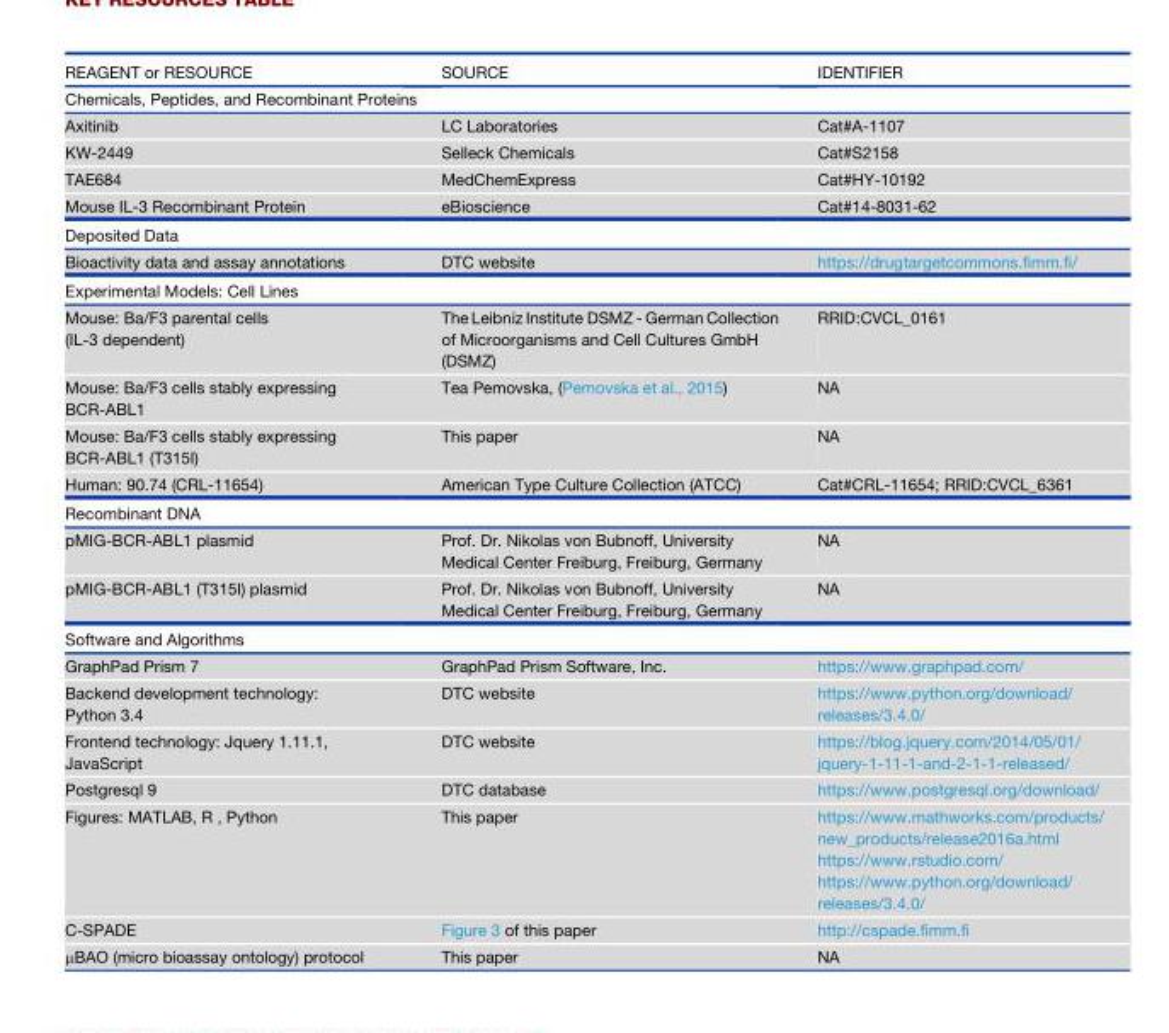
<table><thead><tr><td>REAGENT or RESOURCE</td><td>SOURCE</td><td>IDENTIFIER</td></tr></thead><tbody><tr><td colspan="3">Chemicals, Peptides, and Recombinant Proteins</td></tr><tr><td>Axitinib</td><td>LC Laboratories</td><td>Cat#A-1107</td></tr><tr><td>KW-2449</td><td>Selleck Chemicals</td><td>Cat#S2158</td></tr><tr><td>TAE684</td><td>MedChemExpress</td><td>Cat#HY-10192</td></tr><tr><td>Mouse IL-3 Recombinant Protein</td><td>eBioscience</td><td>Cat#14-8031-62</td></tr><tr><td colspan="3">Deposited Data</td></tr><tr><td>Bioactivity data and assay annotations</td><td>DTC website</td><td>https://drugtargetcommons.fimm.fi/</td></tr><tr><td colspan="3">Experimental Models: Cell Lines</td></tr><tr><td>Mouse: Ba/F3 parental cells (IL-3 dependent)</td><td>The Leibniz Institute DSMZ - German Collection of Microorganisms and Cell Cultures GmbH (DSMZ)</td><td>RRID:CVCL_0161</td></tr><tr><td>Mouse: Ba/F3 cells stably expressing BCR-ABL1</td><td>Tea Pemovska, (Pemovska et al., 2015)</td><td>NA</td></tr><tr><td>Mouse: Ba/F3 cells stably expressing BCR-ABL1 (T315I)</td><td>This paper</td><td>NA</td></tr><tr><td>Human: 90.74 (CRL-11654)</td><td>American Type Culture Collection (ATCC)</td><td>Cat#CRL-11654; RRID:CVCL_6361</td></tr><tr><td colspan="3">Recombinant DNA</td></tr><tr><td>pMIG-BCR-ABL1 plasmid</td><td>Prof. Dr. Nikolas von Bubnoff, University Medical Center Freiburg, Freiburg, Germany</td><td>NA</td></tr><tr><td>pMIG-BCR-ABL1 (T315I) plasmid</td><td>Prof. Dr. Nikolas von Bubnoff, University Medical Center Freiburg, Freiburg, Germany</td><td>NA</td></tr><tr><td colspan="3">Software and Algorithms</td></tr><tr><td>GraphPad Prism 7</td><td>GraphPad Prism Software, Inc.</td><td>https://www.graphpad.com/</td></tr><tr><td>Backend development technology: Python 3.4</td><td>DTC website</td><td>https://www.python.org/download/ releases/3.4.0/</td></tr><tr><td>Frontend technology: Jquery 1.11.1, JavaScript</td><td>DTC website</td><td>https://blog.jquery.com/2014/05/01/ jquery-1-11-1-and-2-1-1-released/</td></tr><tr><td>Postgresql 9</td><td>DTC database</td><td>https://www.postgresql.org/download/</td></tr><tr><td>Figures: MATLAB, R , Python</td><td>This paper</td><td>https://www.mathworks.com/products/ new_products/release2016a.html https://www.rstudio.com/ https://www.python.org/download/ releases/3.4.0/</td></tr><tr><td>C-SPADE</td><td>Figure 3 of this paper</td><td>http://cspade.fimm.fi</td></tr><tr><td>μBAO (micro bioassay ontology) protocol</td><td>This paper</td><td>NA</td></tr></tbody></table>